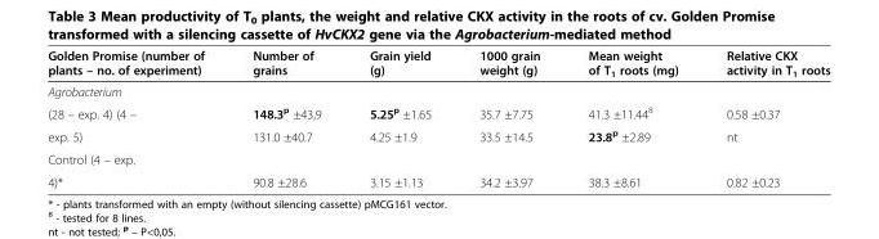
<table><thead><tr><td>Golden Promise (number of plants – no. of experiment)</td><td>Number of grains</td><td>Grain yield (g)</td><td>1000 grain weight (g)</td><td>Mean weight of T<sub>1</sub> roots (mg)</td><td>Relative CKX activity in T<sub>1</sub> roots</td></tr></thead><tbody><tr><td colspan="6">Agrobacterium</td></tr><tr><td>(28 – exp. 4) (4 –</td><td>148.3<sup>p</sup> ±43,9</td><td>5.25<sup>p</sup> ±1.65</td><td>35.7 ±7.75</td><td>41.3 ±11.44<sup>8</sup></td><td>0.58 ±0.37</td></tr><tr><td>exp. 5)</td><td>131.0 ±40.7</td><td>4.25 ±1.9</td><td>33.5 ±14.5</td><td>23.8<sup>p</sup> ±2.89</td><td>nt</td></tr><tr><td colspan="6">Control (4 – exp.</td></tr><tr><td>4)*</td><td>90.8 ±28.6</td><td>3.15 ±1.13</td><td>34.2 ±3.97</td><td>38.3 ±8.61</td><td>0.82 ±0.23</td></tr></tbody></table>